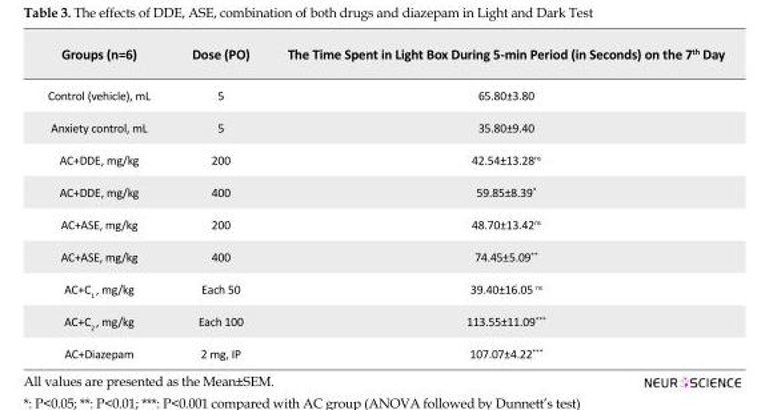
<table><thead><tr><td>Groups (n=6)</td><td>Dose (PO)</td><td>The Time Spent in Light Box During 5-min Period (in Seconds) on the 7<sup>th</sup> Day</td></tr></thead><tbody><tr><td>Control (vehicle), mL</td><td>5</td><td>65.80±3.80</td></tr><tr><td>Anxiety control, mL</td><td>5</td><td>35.80±9.40</td></tr><tr><td>AC+DDE, mg/kg</td><td>200</td><td>42.54±13.28<sup>ns</sup></td></tr><tr><td>AC+DDE, mg/kg</td><td>400</td><td>59.85±8.39*</td></tr><tr><td>AC+ASE, mg/kg</td><td>200</td><td>48.70±13.42<sup>ns</sup></td></tr><tr><td>AC+ASE, mg/kg</td><td>400</td><td>74.45±5.09**</td></tr><tr><td>AC+C<sub>1</sub> , mg/kg</td><td>Each 50</td><td>39.40±16.05 <sup>ns</sup></td></tr><tr><td>AC+C<sub>2</sub> , mg/kg</td><td>Each 100</td><td>113.55±11.09***</td></tr><tr><td>AC+Diazepam</td><td>2 mg, IP</td><td>107.07±4.22***</td></tr></tbody></table>